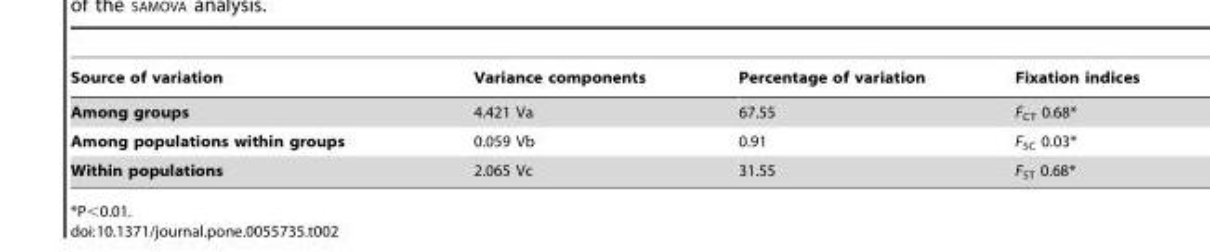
<table><thead><tr><td>Source of variation</td><td>Variance components</td><td>Percentage of variation</td><td>Fixation indices</td></tr></thead><tbody><tr><td>Among groups</td><td>4.421 Va</td><td>67.55</td><td>F<sub>CT</sub> 0.68*</td></tr><tr><td>Among populations within groups</td><td>0.059 Vb</td><td>0.91</td><td>F<sub>SC</sub> 0.03*</td></tr><tr><td>Within populations</td><td>2.065 Vc</td><td>31.55</td><td>F<sub>ST</sub> 0.68*</td></tr></tbody></table>